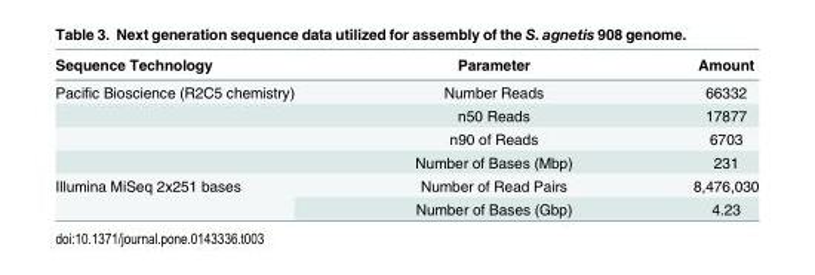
<table><thead><tr><td>Sequence Technology</td><td>Parameter</td><td>Amount</td></tr></thead><tbody><tr><td rowspan="4">Pacific Bioscience (R2C5 chemistry)</td><td>Number Reads</td><td>66332</td></tr><tr><td>n50 Reads</td><td>17877</td></tr><tr><td>n90 of Reads</td><td>6703</td></tr><tr><td>Number of Bases (Mbp)</td><td>231</td></tr><tr><td rowspan="2">Illumina MiSeq 2x251 bases</td><td>Number of Read Pairs</td><td>8,476,030</td></tr><tr><td>Number of Bases (Gbp)</td><td>4.23</td></tr></tbody></table>